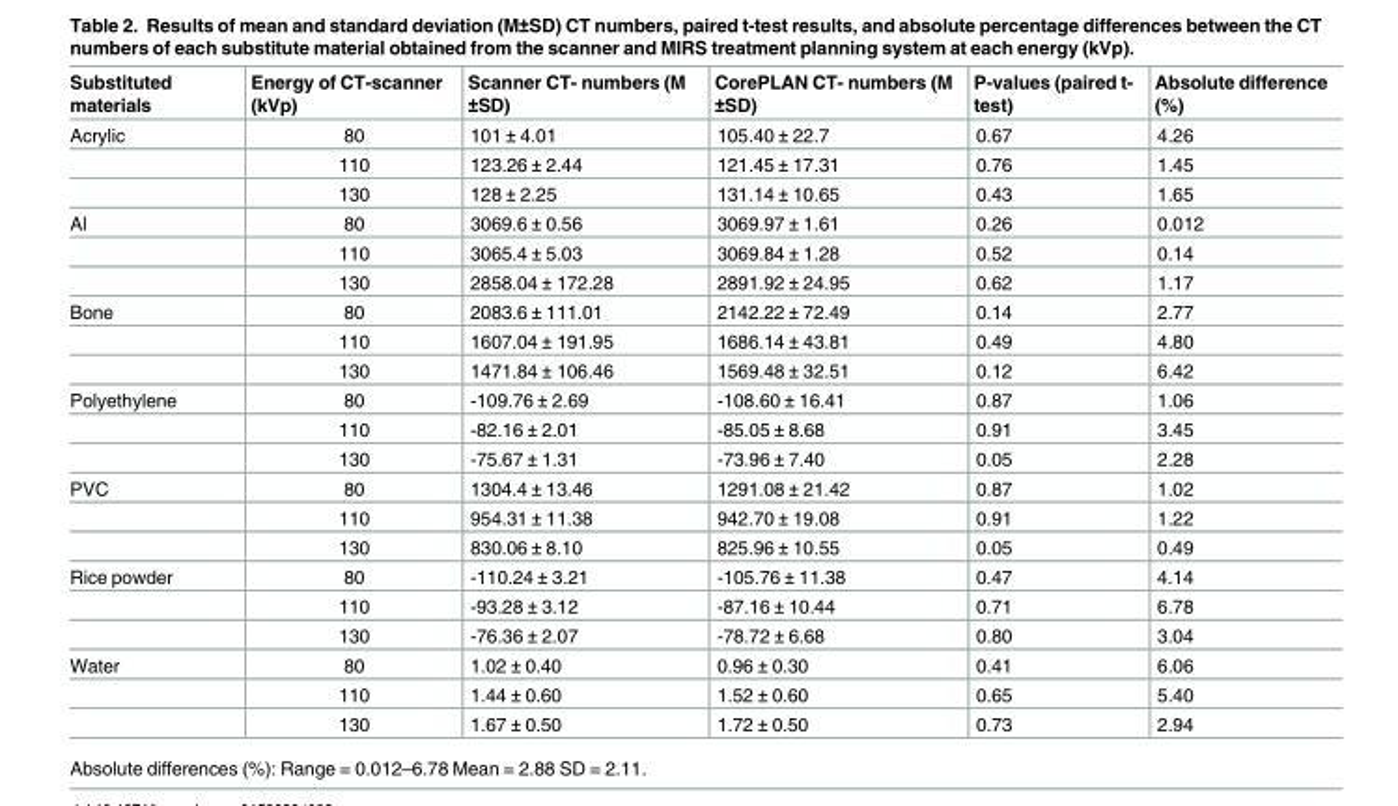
<table><thead><tr><td>Substituted materials</td><td>Energy of CT-scanner (kVp)</td><td>Scanner CT- numbers (M ±SD)</td><td>CorePLAN CT- numbers (M ±SD)</td><td>P-values (paired t- test)</td><td>Absolute difference (%)</td></tr></thead><tbody><tr><td rowspan="3">Acrylic</td><td>80</td><td>101 ± 4.01</td><td>105.40 ± 22.7</td><td>0.67</td><td>4.26</td></tr><tr><td>110</td><td>123.26 ± 2.44</td><td>121.45 ± 17.31</td><td>0.76</td><td>1.45</td></tr><tr><td>130</td><td>128 ± 2.25</td><td>131.14 ± 10.65</td><td>0.43</td><td>1.65</td></tr><tr><td rowspan="3">Al</td><td>80</td><td>3069.6 ± 0.56</td><td>3069.97 ± 1.61</td><td>0.26</td><td>0.012</td></tr><tr><td>110</td><td>3065.4 ± 5.03</td><td>3069.84 ± 1.28</td><td>0.52</td><td>0.14</td></tr><tr><td>130</td><td>2858.04 ± 172.28</td><td>2891.92 ± 24.95</td><td>0.62</td><td>1.17</td></tr><tr><td rowspan="3">Bone</td><td>80</td><td>2083.6 ± 111.01</td><td>2142.22 ± 72.49</td><td>0.14</td><td>2.77</td></tr><tr><td>110</td><td>1607.04 ± 191.95</td><td>1686.14 ± 43.81</td><td>0.49</td><td>4.80</td></tr><tr><td>130</td><td>1471.84 ± 106.46</td><td>1569.48 ± 32.51</td><td>0.12</td><td>6.42</td></tr><tr><td rowspan="3">Polyethylene</td><td>80</td><td>-109.76 ± 2.69</td><td>-108.60 ± 16.41</td><td>0.87</td><td>1.06</td></tr><tr><td>110</td><td>-82.16 ± 2.01</td><td>-85.05 ± 8.68</td><td>0.91</td><td>3.45</td></tr><tr><td>130</td><td>-75.67 ± 1.31</td><td>-73.96 ± 7.40</td><td>0.05</td><td>2.28</td></tr><tr><td rowspan="3">PVC</td><td>80</td><td>1304.4 ± 13.46</td><td>1291.08 ± 21.42</td><td>0.87</td><td>1.02</td></tr><tr><td>110</td><td>954.31 ± 11.38</td><td>942.70 ± 19.08</td><td>0.91</td><td>1.22</td></tr><tr><td>130</td><td>830.06 ± 8.10</td><td>825.96 ± 10.55</td><td>0.05</td><td>0.49</td></tr><tr><td rowspan="3">Rice powder</td><td>80</td><td>-110.24 ± 3.21</td><td>-105.76 ± 11.38</td><td>0.47</td><td>4.14</td></tr><tr><td>110</td><td>-93.28 ± 3.12</td><td>-87.16 ± 10.44</td><td>0.71</td><td>6.78</td></tr><tr><td>130</td><td>-76.36 ± 2.07</td><td>-78.72 ± 6.68</td><td>0.80</td><td>3.04</td></tr><tr><td rowspan="3">Water</td><td>80</td><td>1.02 ± 0.40</td><td>0.96 ± 0.30</td><td>0.41</td><td>6.06</td></tr><tr><td>110</td><td>1.44 ± 0.60</td><td>1.52 ± 0.60</td><td>0.65</td><td>5.40</td></tr><tr><td>130</td><td>1.67 ± 0.50</td><td>1.72 ± 0.50</td><td>0.73</td><td>2.94</td></tr></tbody></table>